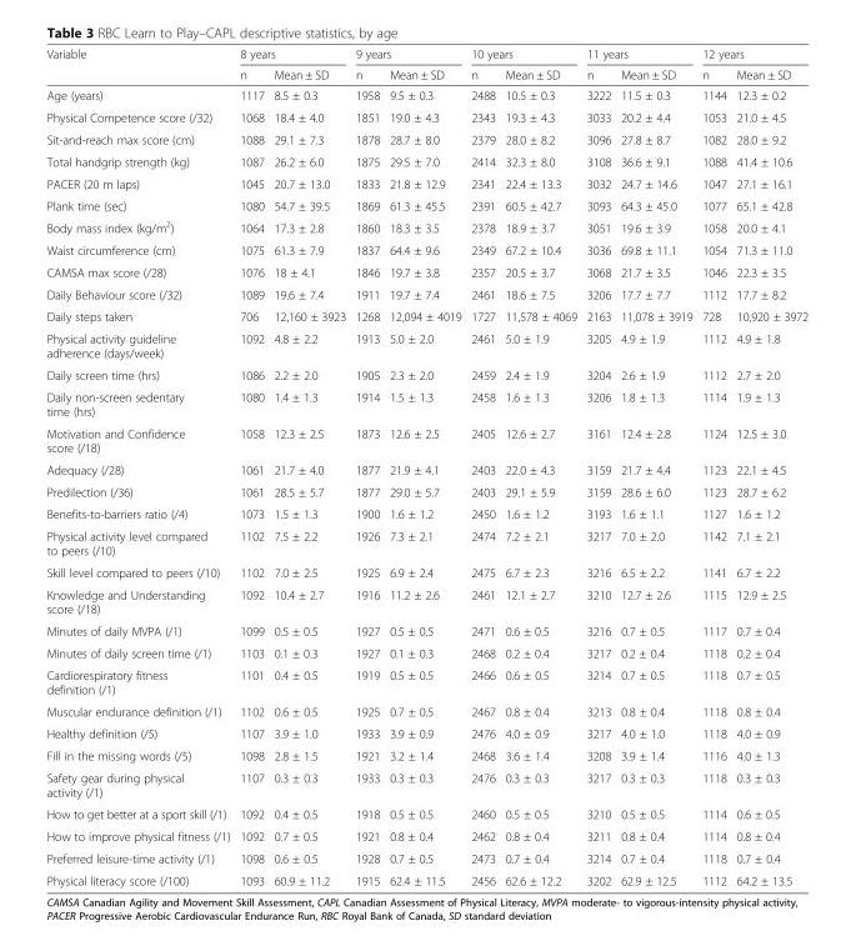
<table><thead><tr><td rowspan="2">Variable</td><td colspan="2">8 years</td><td colspan="2">9 years</td><td colspan="2">10 years</td><td colspan="2">11 years</td><td colspan="2">12 years</td></tr><tr><td>n</td><td>Mean ± SD</td><td>n</td><td>Mean ± SD</td><td>n</td><td>Mean ± SD</td><td>n</td><td>Mean ± SD</td><td>n</td><td>Mean ± SD</td></tr></thead><tbody><tr><td>Age (years)</td><td>1117</td><td>8.5 ± 0.3</td><td>1958</td><td>9.5 ± 0.3</td><td>2488</td><td>10.5 ± 0.3</td><td>3222</td><td>11.5 ± 0.3</td><td>1144</td><td>12.3 ± 0.2</td></tr><tr><td>Physical Competence score (/32)</td><td>1068</td><td>18.4 ± 4.0</td><td>1851</td><td>19.0 ± 4.3</td><td>2343</td><td>19.3 ± 4.3</td><td>3033</td><td>20.2 ± 4.4</td><td>1053</td><td>21.0 ± 4.5</td></tr><tr><td>Sit-and-reach max score (cm)</td><td>1088</td><td>29.1 ± 7.3</td><td>1878</td><td>28.7 ± 8.0</td><td>2379</td><td>28.0 ± 8.2</td><td>3096</td><td>27.8 ± 8.7</td><td>1082</td><td>28.0 ± 9.2</td></tr><tr><td>Total handgrip strength (kg)</td><td>1087</td><td>26.2 ± 6.0</td><td>1875</td><td>29.5 ± 7.0</td><td>2414</td><td>32.3 ± 8.0</td><td>3108</td><td>36.6 ± 9.1</td><td>1088</td><td>41.4 ± 10.6</td></tr><tr><td>PACER (20 m laps)</td><td>1045</td><td>20.7 ± 13.0</td><td>1833</td><td>21.8 ± 12.9</td><td>2341</td><td>22.4 ± 13.3</td><td>3032</td><td>24.7 ± 14.6</td><td>1047</td><td>27.1 ± 16.1</td></tr><tr><td>Plank time (sec)</td><td>1080</td><td>54.7 ± 39.5</td><td>1869</td><td>61.3 ± 45.5</td><td>2391</td><td>60.5 ± 42.7</td><td>3093</td><td>64.3 ± 45.0</td><td>1077</td><td>65.1 ± 42.8</td></tr><tr><td>Body mass index (kg/m<sup>2</sup>)</td><td>1064</td><td>17.3 ± 2.8</td><td>1860</td><td>18.3 ± 3.5</td><td>2378</td><td>18.9 ± 3.7</td><td>3051</td><td>19.6 ± 3.9</td><td>1058</td><td>20.0 ± 4.1</td></tr><tr><td>Waist circumference (cm)</td><td>1075</td><td>61.3 ± 7.9</td><td>1837</td><td>64.4 ± 9.6</td><td>2349</td><td>67.2 ± 10.4</td><td>3036</td><td>69.8 ± 11.1</td><td>1054</td><td>71.3 ± 11.0</td></tr><tr><td>CAMSA max score (/28)</td><td>1076</td><td>18 ± 4.1</td><td>1846</td><td>19.7 ± 3.8</td><td>2357</td><td>20.5 ± 3.7</td><td>3068</td><td>21.7 ± 3.5</td><td>1046</td><td>22.3 ± 3.5</td></tr><tr><td>Daily Behaviour score (/32)</td><td>1089</td><td>19.6 ± 7.4</td><td>1911</td><td>19.7 ± 7.4</td><td>2461</td><td>18.6 ± 7.5</td><td>3206</td><td>17.7 ± 7.7</td><td>1112</td><td>17.7 ± 8.2</td></tr><tr><td>Daily steps taken</td><td>706</td><td>12,160 ± 3923</td><td>1268</td><td>12,094 ± 4019</td><td>1727</td><td>11,578 ± 4069</td><td>2163</td><td>11,078 ± 3919</td><td>728</td><td>10,920 ± 3972</td></tr><tr><td>Physical activity guideline adherence (days/week)</td><td>1092</td><td>4.8 ± 2.2</td><td>1913</td><td>5.0 ± 2.0</td><td>2461</td><td>5.0 ± 1.9</td><td>3205</td><td>4.9 ± 1.9</td><td>1112</td><td>4.9 ± 1.8</td></tr><tr><td>Daily screen time (hrs)</td><td>1086</td><td>2.2 ± 2.0</td><td>1905</td><td>2.3 ± 2.0</td><td>2459</td><td>2.4 ± 1.9</td><td>3204</td><td>2.6 ± 1.9</td><td>1112</td><td>2.7 ± 2.0</td></tr><tr><td>Daily non-screen sedentary time (hrs)</td><td>1080</td><td>1.4 ± 1.3</td><td>1914</td><td>1.5 ± 1.3</td><td>2458</td><td>1.6 ± 1.3</td><td>3206</td><td>1.8 ± 1.3</td><td>1114</td><td>1.9 ± 1.3</td></tr><tr><td>Motivation and Confidence score (/18)</td><td>1058</td><td>12.3 ± 2.5</td><td>1873</td><td>12.6 ± 2.5</td><td>2405</td><td>12.6 ± 2.7</td><td>3161</td><td>12.4 ± 2.8</td><td>1124</td><td>12.5 ± 3.0</td></tr><tr><td>Adequacy (/28)</td><td>1061</td><td>21.7 ± 4.0</td><td>1877</td><td>21.9 ± 4.1</td><td>2403</td><td>22.0 ± 4.3</td><td>3159</td><td>21.7 ± 4.4</td><td>1123</td><td>22.1 ± 4.5</td></tr><tr><td>Predilection (/36)</td><td>1061</td><td>28.5 ± 5.7</td><td>1877</td><td>29.0 ± 5.7</td><td>2403</td><td>29.1 ± 5.9</td><td>3159</td><td>28.6 ± 6.0</td><td>1123</td><td>28.7 ± 6.2</td></tr><tr><td>Benefits-to-barriers ratio (/4)</td><td>1073</td><td>1.5 ± 1.3</td><td>1900</td><td>1.6 ± 1.2</td><td>2450</td><td>1.6 ± 1.2</td><td>3193</td><td>1.6 ± 1.1</td><td>1127</td><td>1.6 ± 1.2</td></tr><tr><td>Physical activity level compared to peers (/10)</td><td>1102</td><td>7.5 ± 2.2</td><td>1926</td><td>7.3 ± 2.1</td><td>2474</td><td>7.2 ± 2.1</td><td>3217</td><td>7.0 ± 2.0</td><td>1142</td><td>7.1 ± 2.1</td></tr><tr><td>Skill level compared to peers (/10)</td><td>1102</td><td>7.0 ± 2.5</td><td>1925</td><td>6.9 ± 2.4</td><td>2475</td><td>6.7 ± 2.3</td><td>3216</td><td>6.5 ± 2.2</td><td>1141</td><td>6.7 ± 2.2</td></tr><tr><td>Knowledge and Understanding score (/18)</td><td>1092</td><td>10.4 ± 2.7</td><td>1916</td><td>11.2 ± 2.6</td><td>2461</td><td>12.1 ± 2.7</td><td>3210</td><td>12.7 ± 2.6</td><td>1115</td><td>12.9 ± 2.5</td></tr><tr><td>Minutes of daily MVPA (/1)</td><td>1099</td><td>0.5 ± 0.5</td><td>1927</td><td>0.5 ± 0.5</td><td>2471</td><td>0.6 ± 0.5</td><td>3216</td><td>0.7 ± 0.5</td><td>1117</td><td>0.7 ± 0.4</td></tr><tr><td>Minutes of daily screen time (/1)</td><td>1103</td><td>0.1 ± 0.3</td><td>1927</td><td>0.1 ± 0.3</td><td>2468</td><td>0.2 ± 0.4</td><td>3217</td><td>0.2 ± 0.4</td><td>1118</td><td>0.2 ± 0.4</td></tr><tr><td>Cardiorespiratory fitness definition (/1)</td><td>1101</td><td>0.4 ± 0.5</td><td>1919</td><td>0.5 ± 0.5</td><td>2466</td><td>0.6 ± 0.5</td><td>3214</td><td>0.7 ± 0.5</td><td>1118</td><td>0.7 ± 0.5</td></tr><tr><td>Muscular endurance definition (/1)</td><td>1102</td><td>0.6 ± 0.5</td><td>1925</td><td>0.7 ± 0.5</td><td>2467</td><td>0.8 ± 0.4</td><td>3213</td><td>0.8 ± 0.4</td><td>1118</td><td>0.8 ± 0.4</td></tr><tr><td>Healthy definition (/5)</td><td>1107</td><td>3.9 ± 1.0</td><td>1933</td><td>3.9 ± 0.9</td><td>2476</td><td>4.0 ± 0.9</td><td>3217</td><td>4.0 ± 1.0</td><td>1118</td><td>4.0 ± 0.9</td></tr><tr><td>Fill in the missing words (/5)</td><td>1098</td><td>2.8 ± 1.5</td><td>1921</td><td>3.2 ± 1.4</td><td>2468</td><td>3.6 ± 1.4</td><td>3208</td><td>3.9 ± 1.4</td><td>1116</td><td>4.0 ± 1.3</td></tr><tr><td>Safety gear during physical activity (/1)</td><td>1107</td><td>0.3 ± 0.3</td><td>1933</td><td>0.3 ± 0.3</td><td>2476</td><td>0.3 ± 0.3</td><td>3217</td><td>0.3 ± 0.3</td><td>1118</td><td>0.3 ± 0.3</td></tr><tr><td>How to get better at a sport skill (/1)</td><td>1092</td><td>0.4 ± 0.5</td><td>1918</td><td>0.5 ± 0.5</td><td>2460</td><td>0.5 ± 0.5</td><td>3210</td><td>0.5 ± 0.5</td><td>1114</td><td>0.6 ± 0.5</td></tr><tr><td>How to improve physical fitness (/1)</td><td>1092</td><td>0.7 ± 0.5</td><td>1921</td><td>0.8 ± 0.4</td><td>2462</td><td>0.8 ± 0.4</td><td>3211</td><td>0.8 ± 0.4</td><td>1114</td><td>0.8 ± 0.4</td></tr><tr><td>Preferred leisure-time activity (/1)</td><td>1098</td><td>0.6 ± 0.5</td><td>1928</td><td>0.7 ± 0.5</td><td>2473</td><td>0.7 ± 0.4</td><td>3214</td><td>0.7 ± 0.4</td><td>1118</td><td>0.7 ± 0.4</td></tr><tr><td>Physical literacy score (/100)</td><td>1093</td><td>60.9 ± 11.2</td><td>1915</td><td>62.4 ± 11.5</td><td>2456</td><td>62.6 ± 12.2</td><td>3202</td><td>62.9 ± 12.5</td><td>1112</td><td>64.2 ± 13.5</td></tr></tbody></table>